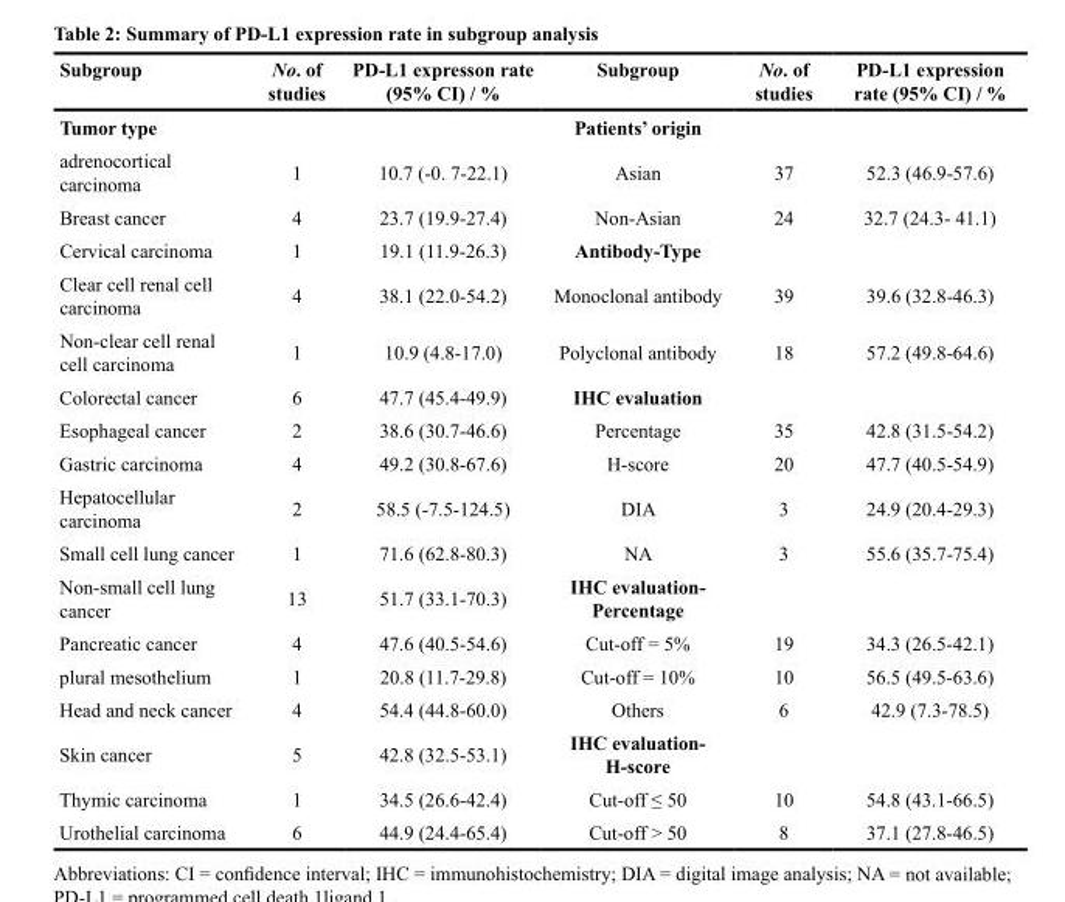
<table><thead><tr><td>Subgroup</td><td>No. of studies</td><td>PD-L1 expresson rate (95% CI) / %</td><td>Subgroup</td><td>No. of studies</td><td>PD-L1 expression rate (95% CI) / %</td></tr></thead><tbody><tr><td>Tumor type</td><td></td><td></td><td>Patients’ origin</td><td></td><td></td></tr><tr><td>adrenocortical carcinoma</td><td>1</td><td>10.7 (-0. 7-22.1)</td><td>Asian</td><td>37</td><td>52.3 (46.9-57.6)</td></tr><tr><td>Breast cancer</td><td>4</td><td>23.7 (19.9-27.4)</td><td>Non-Asian</td><td>24</td><td>32.7 (24.3- 41.1)</td></tr><tr><td>Cervical carcinoma</td><td>1</td><td>19.1 (11.9-26.3)</td><td>Antibody-Type</td><td></td><td></td></tr><tr><td>Clear cell renal cell carcinoma</td><td>4</td><td>38.1 (22.0-54.2)</td><td>Monoclonal antibody</td><td>39</td><td>39.6 (32.8-46.3)</td></tr><tr><td>Non-clear cell renal cell carcinoma</td><td>1</td><td>10.9 (4.8-17.0)</td><td>Polyclonal antibody</td><td>18</td><td>57.2 (49.8-64.6)</td></tr><tr><td>Colorectal cancer</td><td>6</td><td>47.7 (45.4-49.9)</td><td>IHC evaluation</td><td></td><td></td></tr><tr><td>Esophageal cancer</td><td>2</td><td>38.6 (30.7-46.6)</td><td>Percentage</td><td>35</td><td>42.8 (31.5-54.2)</td></tr><tr><td>Gastric carcinoma</td><td>4</td><td>49.2 (30.8-67.6)</td><td>H-score</td><td>20</td><td>47.7 (40.5-54.9)</td></tr><tr><td>Hepatocellular carcinoma</td><td>2</td><td>58.5 (-7.5-124.5)</td><td>DIA</td><td>3</td><td>24.9 (20.4-29.3)</td></tr><tr><td>Small cell lung cancer</td><td>1</td><td>71.6 (62.8-80.3)</td><td>NA</td><td>3</td><td>55.6 (35.7-75.4)</td></tr><tr><td>Non-small cell lung cancer</td><td>13</td><td>51.7 (33.1-70.3)</td><td>IHC evaluation- Percentage</td><td></td><td></td></tr><tr><td>Pancreatic cancer</td><td>4</td><td>47.6 (40.5-54.6)</td><td>Cut-off = 5%</td><td>19</td><td>34.3 (26.5-42.1)</td></tr><tr><td>plural mesothelium</td><td>1</td><td>20.8 (11.7-29.8)</td><td>Cut-off = 10%</td><td>10</td><td>56.5 (49.5-63.6)</td></tr><tr><td>Head and neck cancer</td><td>4</td><td>54.4 (44.8-60.0)</td><td>Others</td><td>6</td><td>42.9 (7.3-78.5)</td></tr><tr><td>Skin cancer</td><td>5</td><td>42.8 (32.5-53.1)</td><td>IHC evaluation- H-score</td><td></td><td></td></tr><tr><td>Thymic carcinoma</td><td>1</td><td>34.5 (26.6-42.4)</td><td>Cut-off ≤ 50</td><td>10</td><td>54.8 (43.1-66.5)</td></tr><tr><td>Urothelial carcinoma</td><td>6</td><td>44.9 (24.4-65.4)</td><td>Cut-off &gt; 50</td><td>8</td><td>37.1 (27.8-46.5)</td></tr></tbody></table>